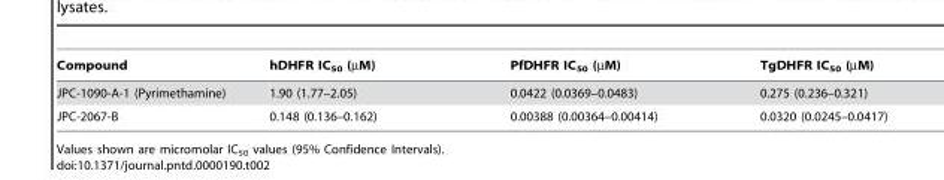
<table><thead><tr><td>Compound</td><td>hDHFR IC<sub>50</sub> (µM)</td><td>PfDHFR IC<sub>50</sub> (µM)</td><td>TgDHFR IC<sub>50</sub> (µM)</td></tr></thead><tbody><tr><td>JPC-1090-A-1 (Pyrimethamine)</td><td>1.90 (1.77–2.05)</td><td>0.0422 (0.0369–0.0483)</td><td>0.275 (0.236–0.321)</td></tr><tr><td>JPC-2067-B</td><td>0.148 (0.136–0.162)</td><td>0.00388 (0.00364–0.00414)</td><td>0.0320 (0.0245–0.0417)</td></tr></tbody></table>